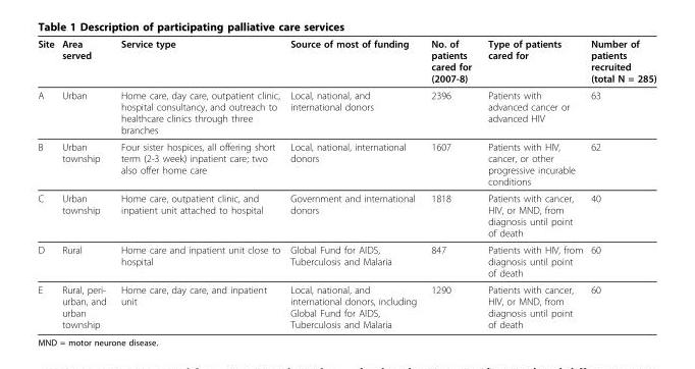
<table><thead><tr><td>Site</td><td>Area served</td><td>Service type</td><td>Source of most of funding</td><td>No. of patients cared for (2007-8)</td><td>Type of patients cared for</td><td>Number of patients recruited (total N = 285)</td></tr></thead><tbody><tr><td>A</td><td>Urban</td><td>Home care, day care, outpatient clinic, hospital consultancy, and outreach to healthcare clinics through three branches</td><td>Local, national, and international donors</td><td>2396</td><td>Patients with advanced cancer or advanced HIV</td><td>63</td></tr><tr><td>B</td><td>Urban township</td><td>Four sister hospices, all offering short term (2-3 week) inpatient care; two also offer home care</td><td>Local, national, international donors</td><td>1607</td><td>Patients with HIV, cancer, or other progressive incurable conditions</td><td>62</td></tr><tr><td>C</td><td>Urban township</td><td>Home care, outpatient clinic, and inpatient unit attached to hospital</td><td>Government and international donors</td><td>1818</td><td>Patients with cancer, HIV, or MND, from diagnosis until point of death</td><td>40</td></tr><tr><td>D</td><td>Rural</td><td>Home care and inpatient unit close to hospital</td><td>Global Fund for AIDS, Tuberculosis and Malaria</td><td>847</td><td>Patients with HIV, from diagnosis until point of death</td><td>60</td></tr><tr><td>E</td><td>Rural, peri- urban, and urban township</td><td>Home care, day care, and inpatient unit</td><td>Local, national, and international donors, including Global Fund for AIDS, Tuberculosis and Malaria</td><td>1290</td><td>Patients with cancer, HIV, or MND, from diagnosis until point of death</td><td>60</td></tr></tbody></table>